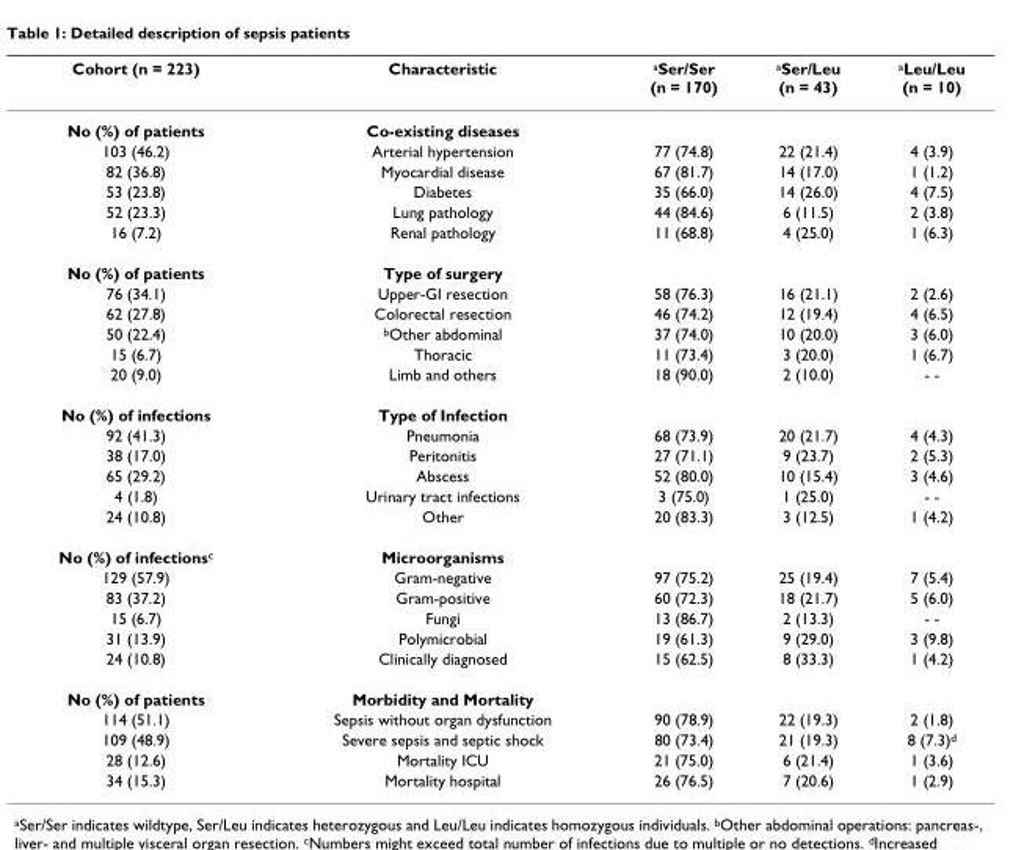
<table><thead><tr><td>Cohort (n = 223)</td><td>Characteristic</td><td><sup>a</sup>Ser/Ser (n = 170)</td><td><sup>a</sup>Ser/Leu (n = 43)</td><td><sup>a</sup>Leu/Leu (n = 10)</td></tr></thead><tbody><tr><td>No (%) of patients</td><td>Co-existing diseases</td><td></td><td></td><td></td></tr><tr><td>103 (46.2)</td><td>Arterial hypertension</td><td>77 (74.8)</td><td>22 (21.4)</td><td>4 (3.9)</td></tr><tr><td>82 (36.8)</td><td>Myocardial disease</td><td>67 (81.7)</td><td>14 (17.0)</td><td>1 (1.2)</td></tr><tr><td>53 (23.8)</td><td>Diabetes</td><td>35 (66.0)</td><td>14 (26.0)</td><td>4 (7.5)</td></tr><tr><td>52 (23.3)</td><td>Lung pathology</td><td>44 (84.6)</td><td>6 (11.5)</td><td>2 (3.8)</td></tr><tr><td>16 (7.2)</td><td>Renal pathology</td><td>11 (68.8)</td><td>4 (25.0)</td><td>1 (6.3)</td></tr><tr><td>No (%) of patients</td><td>Type of surgery</td><td></td><td></td><td></td></tr><tr><td>76 (34.1)</td><td>Upper-GI resection</td><td>58 (76.3)</td><td>16 (21.1)</td><td>2 (2.6)</td></tr><tr><td>62 (27.8)</td><td>Colorectal resection</td><td>46 (74.2)</td><td>12 (19.4)</td><td>4 (6.5)</td></tr><tr><td>50 (22.4)</td><td><sup>b</sup>Other abdominal</td><td>37 (74.0)</td><td>10 (20.0)</td><td>3 (6.0)</td></tr><tr><td>15 (6.7)</td><td>Thoracic</td><td>11 (73.4)</td><td>3 (20.0)</td><td>1 (6.7)</td></tr><tr><td>20 (9.0)</td><td>Limb and others</td><td>18 (90.0)</td><td>2 (10.0)</td><td>- -</td></tr><tr><td>No (%) of infections</td><td>Type of Infection</td><td></td><td></td><td></td></tr><tr><td>92 (41.3)</td><td>Pneumonia</td><td>68 (73.9)</td><td>20 (21.7)</td><td>4 (4.3)</td></tr><tr><td>38 (17.0)</td><td>Peritonitis</td><td>27 (71.1)</td><td>9 (23.7)</td><td>2 (5.3)</td></tr><tr><td>65 (29.2)</td><td>Abscess</td><td>52 (80.0)</td><td>10 (15.4)</td><td>3 (4.6)</td></tr><tr><td>4 (1.8)</td><td>Urinary tract infections</td><td>3 (75.0)</td><td>1 (25.0)</td><td>- -</td></tr><tr><td>24 (10.8)</td><td>Other</td><td>20 (83.3)</td><td>3 (12.5)</td><td>1 (4.2)</td></tr><tr><td>No (%) of infections<sup>c</sup></td><td>Microorganisms</td><td></td><td></td><td></td></tr><tr><td>129 (57.9)</td><td>Gram-negative</td><td>97 (75.2)</td><td>25 (19.4)</td><td>7 (5.4)</td></tr><tr><td>83 (37.2)</td><td>Gram-positive</td><td>60 (72.3)</td><td>18 (21.7)</td><td>5 (6.0)</td></tr><tr><td>15 (6.7)</td><td>Fungi</td><td>13 (86.7)</td><td>2 (13.3)</td><td>- -</td></tr><tr><td>31 (13.9)</td><td>Polymicrobial</td><td>19 (61.3)</td><td>9 (29.0)</td><td>3 (9.8)</td></tr><tr><td>24 (10.8)</td><td>Clinically diagnosed</td><td>15 (62.5)</td><td>8 (33.3)</td><td>1 (4.2)</td></tr><tr><td>No (%) of patients</td><td>Morbidity and Mortality</td><td></td><td></td><td></td></tr><tr><td>114 (51.1)</td><td>Sepsis without organ dysfunction</td><td>90 (78.9)</td><td>22 (19.3)</td><td>2 (1.8)</td></tr><tr><td>109 (48.9)</td><td>Severe sepsis and septic shock</td><td>80 (73.4)</td><td>21 (19.3)</td><td>8 (7.3)<sup>d</sup></td></tr><tr><td>28 (12.6)</td><td>Mortality ICU</td><td>21 (75.0)</td><td>6 (21.4)</td><td>1 (3.6)</td></tr><tr><td>34 (15.3)</td><td>Mortality hospital</td><td>26 (76.5)</td><td>7 (20.6)</td><td>1 (2.9)</td></tr></tbody></table>